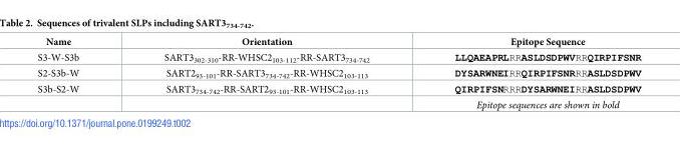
<table><thead><tr><td>Name</td><td>Orientation</td><td>Epitope Sequence</td></tr></thead><tbody><tr><td>S3-W-S3b</td><td>SART3<sub>302-310</sub>-RR-WHSC2<sub>103-112</sub>-RR-SART3<sub>734-742</sub></td><td>LLQAEAPRLRRASLDSDPWVRRQIRPIFSNR</td></tr><tr><td>S2-S3b-W</td><td>SART2<sub>93-101</sub>-RR-SART3<sub>734-742</sub>-RR-WHSC2<sub>103-113</sub></td><td>DYSARWNEIRRQIRPIFSNRRRASLDSDPWV</td></tr><tr><td rowspan="2">S3b-S2-W</td><td>SART3<sub>734-742</sub>-RR-SART2<sub>93-101</sub>-RR-WHSC2<sub>103-113</sub></td><td>QIRPIFSNRRRDYSARWNEIRRASLDSDPWV</td></tr><tr><td></td><td>Epitope sequences are shown in bold</td></tr></tbody></table>